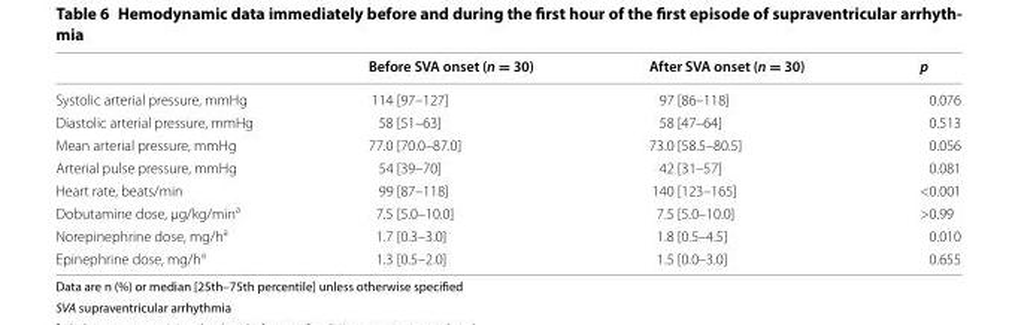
<table><thead><tr><td></td><td>Before SVA onset (n = 30)</td><td>After SVA onset (n = 30)</td><td>p</td></tr></thead><tbody><tr><td>Systolic arterial pressure, mmHg</td><td>114 [97–127]</td><td>97 [86–118]</td><td>0.076</td></tr><tr><td>Diastolic arterial pressure, mmHg</td><td>58 [51–63]</td><td>58 [47–64]</td><td>0.513</td></tr><tr><td>Mean arterial pressure, mmHg</td><td>77.0 [70.0–87.0]</td><td>73.0 [58.5–80.5]</td><td>0.056</td></tr><tr><td>Arterial pulse pressure, mmHg</td><td>54 [39–70]</td><td>42 [31–57]</td><td>0.081</td></tr><tr><td>Heart rate, beats/min</td><td>99 [87–118]</td><td>140 [123–165]</td><td>&lt;0.001</td></tr><tr><td>Dobutamine dose, µg/kg/min<sup>a</sup></td><td>7.5 [5.0–10.0]</td><td>7.5 [5.0–10.0]</td><td>&gt;0.99</td></tr><tr><td>Norepinephrine dose, mg/h<sup>a</sup></td><td>1.7 [0.3–3.0]</td><td>1.8 [0.5–4.5]</td><td>0.010</td></tr><tr><td>Epinephrine dose, mg/h<sup>a</sup></td><td>1.3 [0.5–2.0]</td><td>1.5 [0.0–3.0]</td><td>0.655</td></tr></tbody></table>